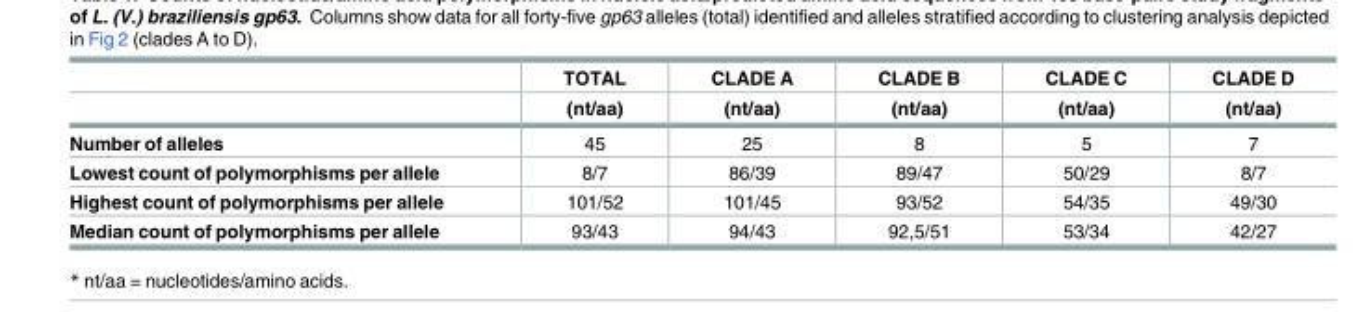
<table><thead><tr><td rowspan="2"></td><td rowspan="2">TOTAL (nt/aa)</td><td rowspan="2">CLADE A (nt/aa)</td><td rowspan="2">CLADE B (nt/aa)</td><td rowspan="2">CLADE C (nt/aa)</td><td rowspan="2">CLADE D (nt/aa)</td></tr><tr></tr></thead><tbody><tr><td>Number of alleles</td><td>45</td><td>25</td><td>8</td><td>5</td><td>7</td></tr><tr><td>Lowest count of polymorphisms per allele</td><td>8/7</td><td>86/39</td><td>89/47</td><td>50/29</td><td>8/7</td></tr><tr><td>Highest count of polymorphisms per allele</td><td>101/52</td><td>101/45</td><td>93/52</td><td>54/35</td><td>49/30</td></tr><tr><td>Median count of polymorphisms per allele</td><td>93/43</td><td>94/43</td><td>92,5/51</td><td>53/34</td><td>42/27</td></tr></tbody></table>